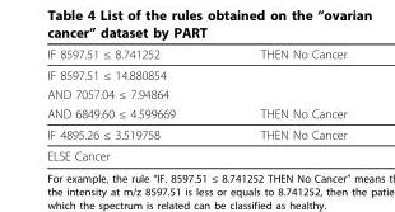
<table><thead><tr><td>IF 8597.51 ≤ 8.741252</td><td>THEN No Cancer</td></tr></thead><tbody><tr><td colspan="2">IF 8597.51 ≤ 14.880854</td></tr><tr><td colspan="2">AND 7057.04 ≤ 7.94864</td></tr><tr><td>AND 6849.60 ≤ 4.599669</td><td>THEN No Cancer</td></tr><tr><td>IF 4895.26 ≤ 3.519758</td><td>THEN No Cancer</td></tr><tr><td colspan="2">ELSE Cancer</td></tr></tbody></table>